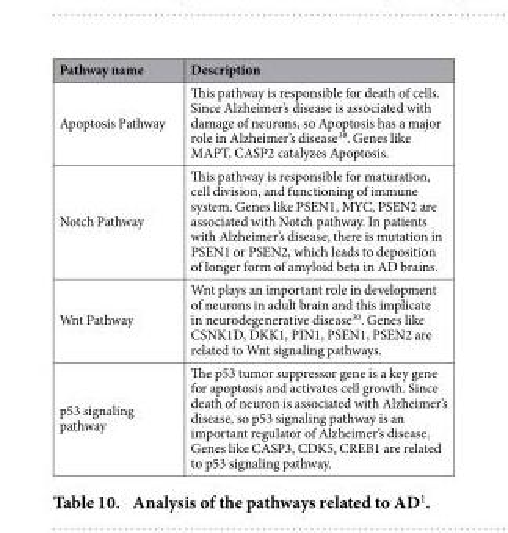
<table><thead><tr><td>Pathway name</td><td>Description</td></tr></thead><tbody><tr><td>Apoptosis Pathway</td><td>This pathway is responsible for death of cells. Since Alzheimer’s disease is associated with damage of neurons, so Apoptosis has a major role in Alzheimer’s disease<sup>38</sup>. Genes like MAPT, CASP2 catalyzes Apoptosis.</td></tr><tr><td>Notch Pathway</td><td>This pathway is responsible for maturation, cell division, and functioning of immune system. Genes like PSEN1, MYC, PSEN2 are associated with Notch pathway. In patients with Alzheimer’s disease, there is mutation in PSEN1 or PSEN2, which leads to deposition of longer form of amyloid beta in AD brains.</td></tr><tr><td>Wnt Pathway</td><td>Wnt plays an important role in development of neurons in adult brain and this implicate in neurodegenerative disease<sup>30</sup>. Genes like CSNK1D, DKK1, PIN1, PSEN1, PSEN2 are related to Wnt signaling pathways.</td></tr><tr><td>p53 signaling pathway</td><td>The p53 tumor suppressor gene is a key gene for apoptosis and activates cell growth. Since death of neuron is associated with Alzheimer’s disease, so p53 signaling pathway is an important regulator of Alzheimer’s disease. Genes like CASP3, CDK5, CREB1 are related to p53 signaling pathway.</td></tr></tbody></table>